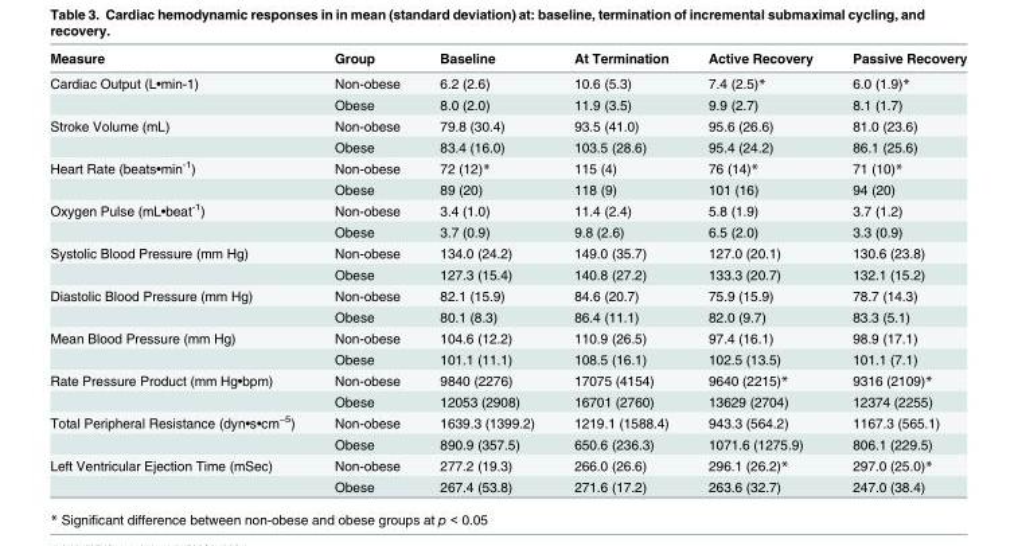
<table><thead><tr><td>Measure</td><td>Group</td><td>Baseline</td><td>At Termination</td><td>Active Recovery</td><td>Passive Recovery</td></tr></thead><tbody><tr><td rowspan="2">Cardiac Output (L•min-1)</td><td>Non-obese</td><td>6.2 (2.6)</td><td>10.6 (5.3)</td><td>7.4 (2.5)*</td><td>6.0 (1.9)*</td></tr><tr><td>Obese</td><td>8.0 (2.0)</td><td>11.9 (3.5)</td><td>9.9 (2.7)</td><td>8.1 (1.7)</td></tr><tr><td rowspan="2">Stroke Volume (mL)</td><td>Non-obese</td><td>79.8 (30.4)</td><td>93.5 (41.0)</td><td>95.6 (26.6)</td><td>81.0 (23.6)</td></tr><tr><td>Obese</td><td>83.4 (16.0)</td><td>103.5 (28.6)</td><td>95.4 (24.2)</td><td>86.1 (25.6)</td></tr><tr><td rowspan="2">Heart Rate (beats•min<sup>-1</sup>)</td><td>Non-obese</td><td>72 (12)*</td><td>115 (4)</td><td>76 (14)*</td><td>71 (10)*</td></tr><tr><td>Obese</td><td>89 (20)</td><td>118 (9)</td><td>101 (16)</td><td>94 (20)</td></tr><tr><td rowspan="2">Oxygen Pulse (mL•beat<sup>-1</sup>)</td><td>Non-obese</td><td>3.4 (1.0)</td><td>11.4 (2.4)</td><td>5.8 (1.9)</td><td>3.7 (1.2)</td></tr><tr><td>Obese</td><td>3.7 (0.9)</td><td>9.8 (2.6)</td><td>6.5 (2.0)</td><td>3.3 (0.9)</td></tr><tr><td rowspan="2">Systolic Blood Pressure (mm Hg)</td><td>Non-obese</td><td>134.0 (24.2)</td><td>149.0 (35.7)</td><td>127.0 (20.1)</td><td>130.6 (23.8)</td></tr><tr><td>Obese</td><td>127.3 (15.4)</td><td>140.8 (27.2)</td><td>133.3 (20.7)</td><td>132.1 (15.2)</td></tr><tr><td rowspan="2">Diastolic Blood Pressure (mm Hg)</td><td>Non-obese</td><td>82.1 (15.9)</td><td>84.6 (20.7)</td><td>75.9 (15.9)</td><td>78.7 (14.3)</td></tr><tr><td>Obese</td><td>80.1 (8.3)</td><td>86.4 (11.1)</td><td>82.0 (9.7)</td><td>83.3 (5.1)</td></tr><tr><td rowspan="2">Mean Blood Pressure (mm Hg)</td><td>Non-obese</td><td>104.6 (12.2)</td><td>110.9 (26.5)</td><td>97.4 (16.1)</td><td>98.9 (17.1)</td></tr><tr><td>Obese</td><td>101.1 (11.1)</td><td>108.5 (16.1)</td><td>102.5 (13.5)</td><td>101.1 (7.1)</td></tr><tr><td rowspan="2">Rate Pressure Product (mm Hg•bpm)</td><td>Non-obese</td><td>9840 (2276)</td><td>17075 (4154)</td><td>9640 (2215)*</td><td>9316 (2109)*</td></tr><tr><td>Obese</td><td>12053 (2908)</td><td>16701 (2760)</td><td>13629 (2704)</td><td>12374 (2255)</td></tr><tr><td rowspan="2">Total Peripheral Resistance (dyn•s•cm<sup>−5</sup>)</td><td>Non-obese</td><td>1639.3 (1399.2)</td><td>1219.1 (1588.4)</td><td>943.3 (564.2)</td><td>1167.3 (565.1)</td></tr><tr><td>Obese</td><td>890.9 (357.5)</td><td>650.6 (236.3)</td><td>1071.6 (1275.9)</td><td>806.1 (229.5)</td></tr><tr><td rowspan="2">Left Ventricular Ejection Time (mSec)</td><td>Non-obese</td><td>277.2 (19.3)</td><td>266.0 (26.6)</td><td>296.1 (26.2)*</td><td>297.0 (25.0)*</td></tr><tr><td>Obese</td><td>267.4 (53.8)</td><td>271.6 (17.2)</td><td>263.6 (32.7)</td><td>247.0 (38.4)</td></tr></tbody></table>